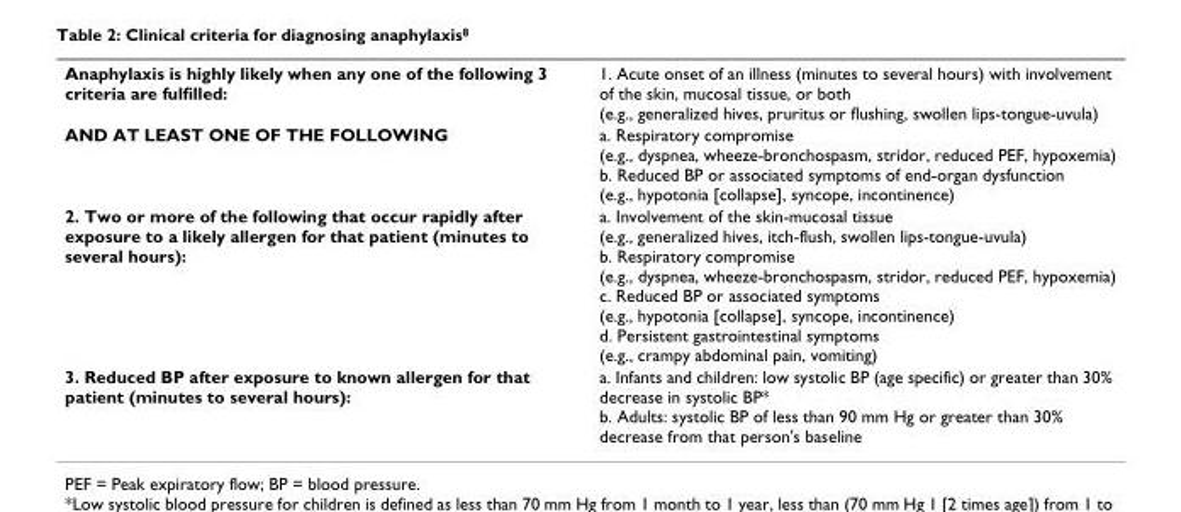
<table><tbody><tr><td>Anaphylaxis is highly likely when any one of the following 3 criteria are fulfilled:</td><td>1. Acute onset of an illness (minutes to several hours) with involvement of the skin, mucosal tissue, or both (e.g., generalized hives, pruritus or flushing, swollen lips-tongue-uvula)</td></tr><tr><td>AND AT LEAST ONE OF THE FOLLOWING</td><td>a. Respiratory compromise (e.g., dyspnea, wheeze-bronchospasm, stridor, reduced PEF, hypoxemia) b. Reduced BP or associated symptoms of end-organ dysfunction (e.g., hypotonia [collapse], syncope, incontinence)</td></tr><tr><td>2. Two or more of the following that occur rapidly after exposure to a likely allergen for that patient (minutes to several hours):</td><td>a. Involvement of the skin-mucosal tissue (e.g., generalized hives, itch-flush, swollen lips-tongue-uvula) b. Respiratory compromise (e.g., dyspnea, wheeze-bronchospasm, stridor, reduced PEF, hypoxemia) c. Reduced BP or associated symptoms (e.g., hypotonia [collapse], syncope, incontinence) d. Persistent gastrointestinal symptoms (e.g., crampy abdominal pain, vomiting)</td></tr><tr><td>3. Reduced BP after exposure to known allergen for that patient (minutes to several hours):</td><td>a. Infants and children: low systolic BP (age specific) or greater than 30% decrease in systolic BP* b. Adults: systolic BP of less than 90 mm Hg or greater than 30% decrease from that person&#x27;s baseline</td></tr></tbody></table>